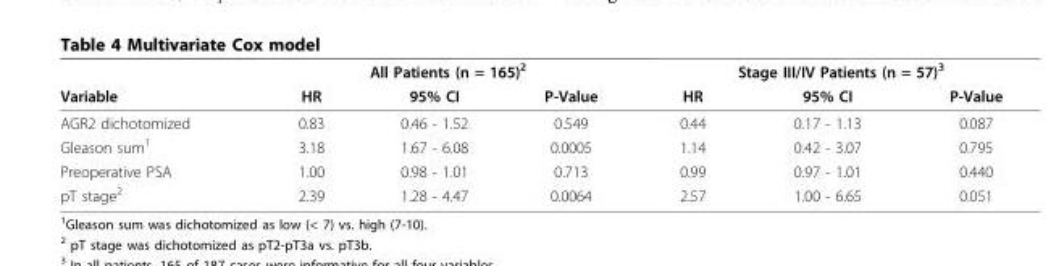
<table><thead><tr><td rowspan="2">Variable</td><td colspan="3">All Patients (n = 165)<sup>2</sup></td><td colspan="3">Stage III/IV Patients (n = 57)<sup>3</sup></td></tr><tr><td>HR</td><td>95% CI</td><td>P-Value</td><td>HR</td><td>95% CI</td><td>P-Value</td></tr></thead><tbody><tr><td>AGR2 dichotomized</td><td>0.83</td><td>0.46 - 1.52</td><td>0.549</td><td>0.44</td><td>0.17 - 1.13</td><td>0.087</td></tr><tr><td>Gleason sum<sup>1</sup></td><td>3.18</td><td>1.67 - 6.08</td><td>0.0005</td><td>1.14</td><td>0.42 - 3.07</td><td>0.795</td></tr><tr><td>Preoperative PSA</td><td>1.00</td><td>0.98 - 1.01</td><td>0.713</td><td>0.99</td><td>0.97 - 1.01</td><td>0.440</td></tr><tr><td>pT stage<sup>2</sup></td><td>2.39</td><td>1.28 - 4.47</td><td>0.0064</td><td>2.57</td><td>1.00 - 6.65</td><td>0.051</td></tr></tbody></table>